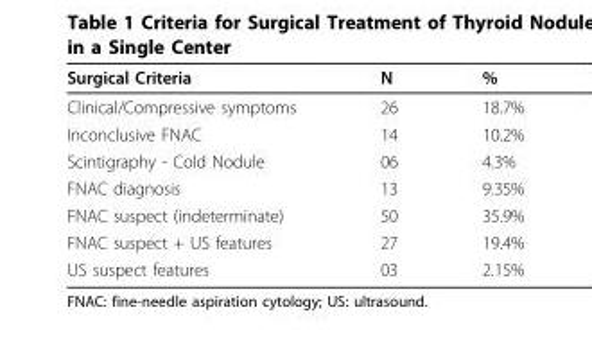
<table><thead><tr><td>Surgical Criteria</td><td>N</td><td>%</td></tr></thead><tbody><tr><td>Clinical/Compressive symptoms</td><td>26</td><td>18.7%</td></tr><tr><td>Inconclusive FNAC</td><td>14</td><td>10.2%</td></tr><tr><td>Scintigraphy - Cold Nodule</td><td>06</td><td>4.3%</td></tr><tr><td>FNAC diagnosis</td><td>13</td><td>9.35%</td></tr><tr><td>FNAC suspect (indeterminate)</td><td>50</td><td>35.9%</td></tr><tr><td>FNAC suspect + US features</td><td>27</td><td>19.4%</td></tr><tr><td>US suspect features</td><td>03</td><td>2.15%</td></tr></tbody></table>